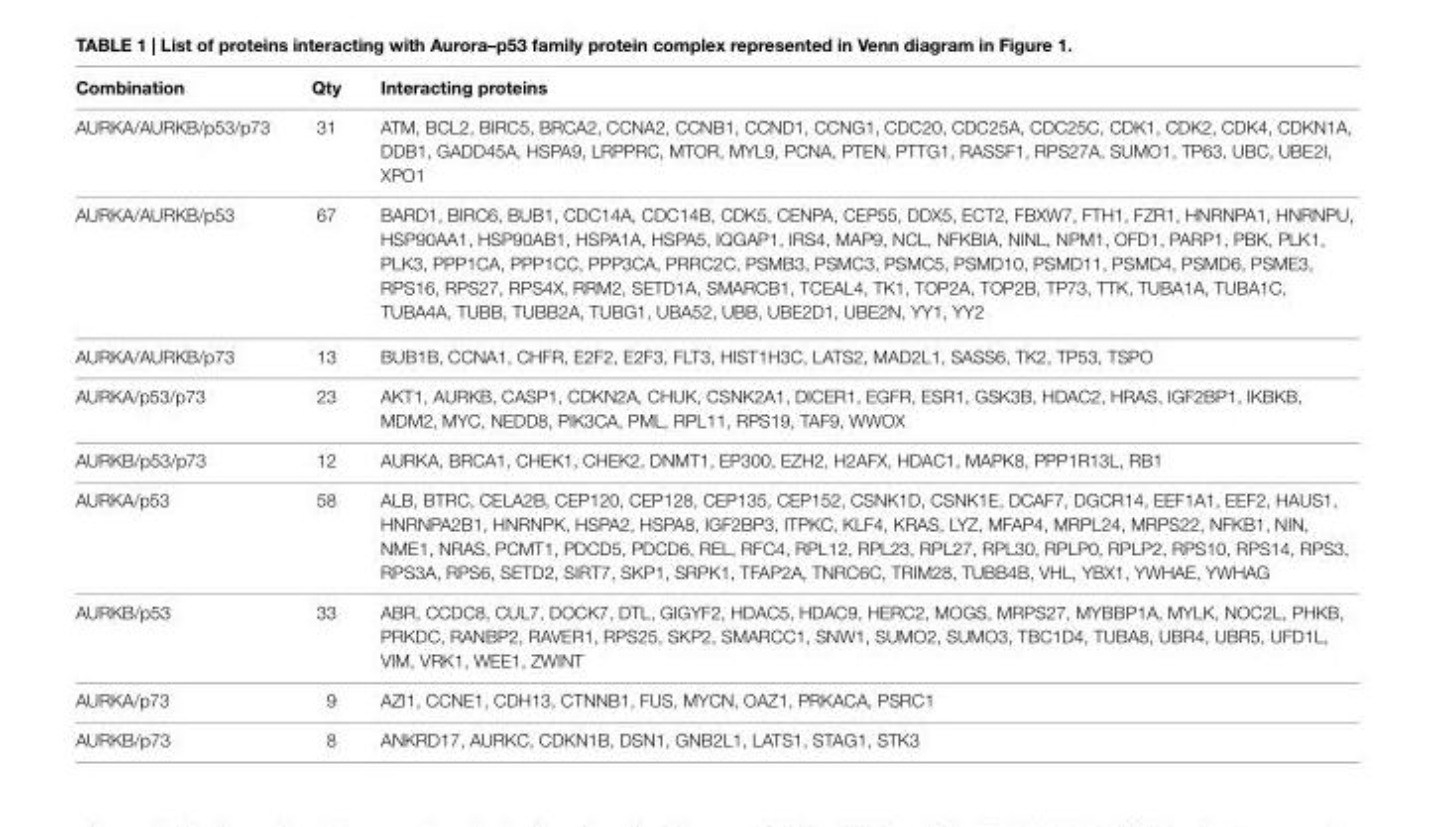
<table><thead><tr><td>Combination</td><td>Qty</td><td>interacting proteins</td></tr></thead><tbody><tr><td>AURKA/AURKB/p53/p73</td><td>31</td><td>ATM, BCL2, BIRC5, BRCA2, CCNA2, CCNB1, CCND1, CCNG1, CDC20, CDC25A, CDC25C, CDK1, CDK2, CDK4, CDKN1A, DDB1, GADD45A, HSPA9, LRPPRC, MTOR, MYL9, PCNA, PTEN, PTTG1, RASSF1, RPS27A, SUMO1, TP63, UBC, UBE2I, XPO1</td></tr><tr><td>AURKA/AURKB/p53</td><td>67</td><td>BARD1, BIRC6, BUB1, CDC14A, CDC14B, CDK5, CENPA, CEP55, DDX5, ECT2, FBXW7, FTH1, FZR1, HNRNPA1, HNRNPU, HSP90AA1, HSP90AB1, HSPA1A, HSPA5, IQGAP1, IRS4, MAP9, NCL, NFKBIA, NINL, NPM1, OFD1, PARP1, PBK, PLK1, PLK3, PPP1CA, PPP1CC, PPP3CA, PRRC2C, PSMB3, PSMC3, PSMC5, PSMD10, PSMD11, PSMD4, PSMD6, PSME3, RPS16, RPS27, RPS4X, RRM2, SETD1A, SMARCB1, TCEAL4, TK1, TOP2A, TOP2B, TP73, TTK, TUBA1A, TUBA1C, TUBA4A, TUBB, TUBB2A, TUBG1, UBA52, UBB, UBE2D1, UBE2N, YY1, YY2</td></tr><tr><td>AURKA/AURKB/p73</td><td>13</td><td>BUB1B, CCNA1, CHFR, E2F2, E2F3, FLT3, HIST1H3C, LATS2, MAD2L1, SASS6, TK2, TP53, TSPO</td></tr><tr><td>AURKA/p53/p73</td><td>23</td><td>AKT1, AURKB, CASP1, CDKN2A, CHUK, CSNK2A1, DICER1, EGFR, ESR1, GSK3B, HDAC2, HRAS, IGF2BP1, IKBKB, MDM2, MYC, NEDD8, PIK3CA, PML, RPL11, RPS19, TAF9, WWOX</td></tr><tr><td>AURKB/p53/p73</td><td>12</td><td>AURKA, BRCA1, CHEK1, CHEK2, DNMT1, EP300, EZH2, H2AFX, HDAC1, MAPK8, PPP1R13L, RB1</td></tr><tr><td>AURKA/p53</td><td>58</td><td>ALB, BTRC, CELA2B, CEP120, CEP128, CEP135, CEP152, CSNK1D, CSNK1E, DCAF7, DGCR14, EEF1A1, EEF2, HAUS1, HNRNPA2B1, HNRNPK, HSPA2, HSPA8, IGF2BP3, ITPKC, KLF4, KRAS, LYZ, MFAP4, MRPL24, MRPS22, NFKB1, NIN, NME1, NRAS, PCMT1, PDCD5, PDCD6, REL, RFC4, RPL12, RPL23, RPL27, RPL30, RPLP0, RPLP2, RPS10, RPS14, RPS3, RPS3A, RPS6, SETD2, SIRT7, SKP1, SRPK1, TFAP2A, TNRC6C, TRIM28, TUBB4B, VHL, YBX1, YWHAE, YWHAG</td></tr><tr><td>AURKB/p53</td><td>33</td><td>ABR, CCDC8, CUL7, DOCK7, DTL, GIGYF2, HDAC5, HDAC9, HERC2, MOGS, MRPS27, MYBBP1A, MYLK, NOC2L, PHKB, PRKDC, RANBP2, RAVER1, RPS25, SKP2, SMARCC1, SNW1, SUMO2, SUMO3, TBC1D4, TUBA8, UBR4, UBR5, UFD1L, VIM, VRK1, WEE1, ZWINT</td></tr><tr><td>AURKA/p73</td><td>9</td><td>AZI1, CCNE1, CDH13, CTNNB1, FUS, MYCN, OAZ1, PRKACA, PSRC1</td></tr><tr><td>AURKB/p73</td><td>8</td><td>ANKRD17, AURKC, CDKN1B, DSN1, GNB2L1, LATS1, STAG1, STK3</td></tr></tbody></table>